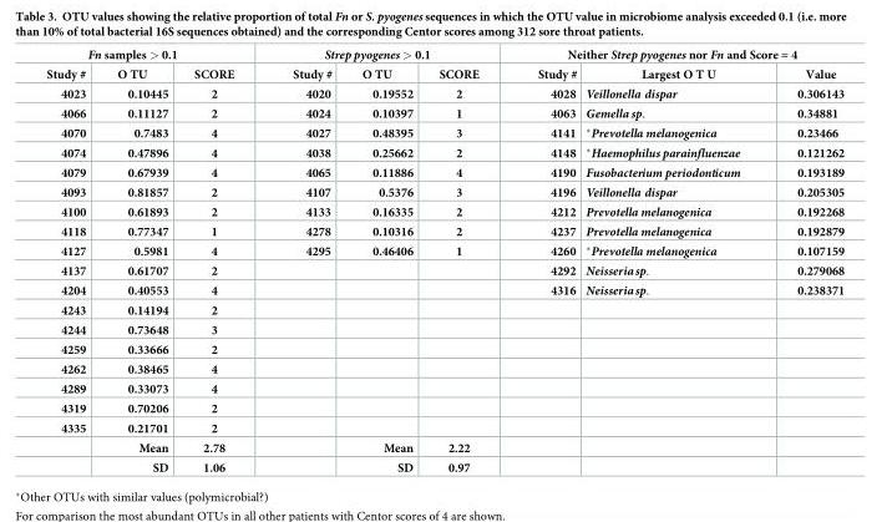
<table><thead><tr><td colspan="3">Fn samples &gt; 0.1</td><td colspan="3">Strep pyogenes &gt; 0.1</td><td colspan="3">Neither Strep pyogenes nor Fn and Score = 4</td></tr><tr><td>Study #</td><td>O TU</td><td>SCORE</td><td>Study #</td><td>O TU</td><td>SCORE</td><td>Study #</td><td>Largest O T U</td><td>Value</td></tr></thead><tbody><tr><td>4023</td><td>0.10445</td><td>2</td><td>4020</td><td>0.19552</td><td>2</td><td>4028</td><td>Veillonella dispar</td><td>0.306143</td></tr><tr><td>4066</td><td>0.11127</td><td>2</td><td>4024</td><td>0.10397</td><td>1</td><td>4063</td><td>Gemella sp.</td><td>0.34881</td></tr><tr><td>4070</td><td>0.7483</td><td>4</td><td>4027</td><td>0.48395</td><td>3</td><td>4141</td><td>*Prevotella melanogenica</td><td>0.23466</td></tr><tr><td>4074</td><td>0.47896</td><td>4</td><td>4038</td><td>0.25662</td><td>2</td><td>4148</td><td>*Haemophilus parainfluenzae</td><td>0.121262</td></tr><tr><td>4079</td><td>0.67939</td><td>4</td><td>4065</td><td>0.11886</td><td>4</td><td>4190</td><td>Fusobacterium periodonticum</td><td>0.193189</td></tr><tr><td>4093</td><td>0.81857</td><td>2</td><td>4107</td><td>0.5376</td><td>3</td><td>4196</td><td>Veillonella dispar</td><td>0.205305</td></tr><tr><td>4100</td><td>0.61893</td><td>2</td><td>4133</td><td>0.16335</td><td>2</td><td>4212</td><td>Prevotella melanogenica</td><td>0.192268</td></tr><tr><td>4118</td><td>0.77347</td><td>1</td><td>4278</td><td>0.10316</td><td>2</td><td>4237</td><td>Prevotella melanogenica</td><td>0.192879</td></tr><tr><td>4127</td><td>0.5981</td><td>4</td><td>4295</td><td>0.46406</td><td>1</td><td>4260</td><td>*Prevotella melanogenica</td><td>0.107159</td></tr><tr><td>4137</td><td>0.61707</td><td>2</td><td></td><td></td><td></td><td>4292</td><td>Neisseriasp.</td><td>0.279068</td></tr><tr><td>4204</td><td>0.40553</td><td>4</td><td></td><td></td><td></td><td>4316</td><td>Neisseriasp.</td><td>0.238371</td></tr><tr><td>4243</td><td>0.14194</td><td>2</td><td></td><td></td><td></td><td></td><td></td><td></td></tr><tr><td>4244</td><td>0.73648</td><td>3</td><td></td><td></td><td></td><td></td><td></td><td></td></tr><tr><td>4259</td><td>0.33666</td><td>2</td><td></td><td></td><td></td><td></td><td></td><td></td></tr><tr><td>4262</td><td>0.38465</td><td>4</td><td></td><td></td><td></td><td></td><td></td><td></td></tr><tr><td>4289</td><td>0.33073</td><td>4</td><td></td><td></td><td></td><td></td><td></td><td></td></tr><tr><td>4319</td><td>0.70206</td><td>2</td><td></td><td></td><td></td><td></td><td></td><td></td></tr><tr><td rowspan="3">4335</td><td>0.21701</td><td>2</td><td></td><td></td><td></td><td></td><td></td><td></td></tr><tr><td>Mean</td><td>2.78</td><td></td><td>Mean</td><td>2.22</td><td></td><td></td><td></td></tr><tr><td>SD</td><td>1.06</td><td></td><td>SD</td><td>0.97</td><td></td><td></td><td></td></tr></tbody></table>